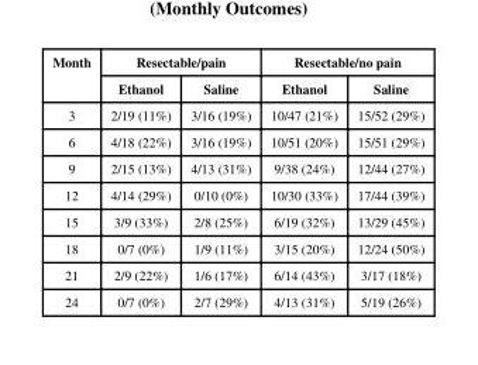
<table><thead><tr><td rowspan="2">Month</td><td colspan="2">Resectable/pain</td><td colspan="2">Resectable/no pain</td></tr><tr><td>Ethanol</td><td>Saline</td><td>Ethanol</td><td>Saline</td></tr></thead><tbody><tr><td>3</td><td>2/19 (11%)</td><td>3/16 (19%)</td><td>10/47 (21%)</td><td>15/52 (29%)</td></tr><tr><td>6</td><td>4/18 (22%)</td><td>3/16 (19%)</td><td>10/51 (20%)</td><td>15/51 (29%)</td></tr><tr><td>9</td><td>2/15 (13%)</td><td>4/13 (31%)</td><td>9/38 (24%)</td><td>12/44 (27%)</td></tr><tr><td>12</td><td>4/14 (29%)</td><td>0/10 (0%)</td><td>10/30 (33%)</td><td>17/44 (39%)</td></tr><tr><td>15</td><td>3/9 (33%)</td><td>2/8 (25%)</td><td>6/19 (32%)</td><td>13/29 (45%)</td></tr><tr><td>18</td><td>0/7 (0%)</td><td>1/9 (11%)</td><td>3/15 (20%)</td><td>12/24 (50%)</td></tr><tr><td>21</td><td>2/9 (22%)</td><td>1/6 (17%)</td><td>6/14 (43%)</td><td>3/17 (18%)</td></tr><tr><td>24</td><td>0/7 (0%)</td><td>2/7 (29%)</td><td>4/13 (31%)</td><td>5/19 (26%)</td></tr></tbody></table>